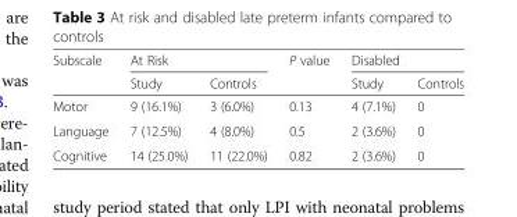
<table><thead><tr><td rowspan="2">Subscale</td><td colspan="2">At Risk</td><td rowspan="2">P value</td><td colspan="2">Disabled</td></tr><tr><td>Study</td><td>Controls</td><td>Study</td><td>Controls</td></tr></thead><tbody><tr><td>Motor</td><td>9 (16.1%)</td><td>3 (6.0%)</td><td>0.13</td><td>4 (7.1%)</td><td>0</td></tr><tr><td>Language</td><td>7 (12.5%)</td><td>4 (8.0%)</td><td>0.5</td><td>2 (3.6%)</td><td>0</td></tr><tr><td>Cognitive</td><td>14 (25.0%)</td><td>11 (22.0%)</td><td>0.82</td><td>2 (3.6%)</td><td>0</td></tr></tbody></table>